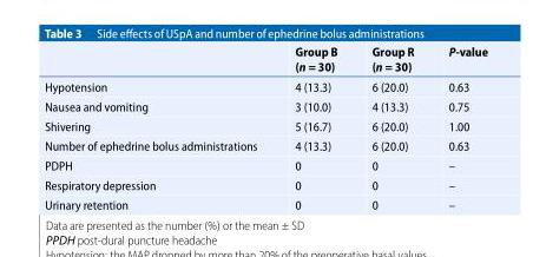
<table><thead><tr><td></td><td>Group B (n = 30)</td><td>Group R (n = 30)</td><td>P-value</td></tr></thead><tbody><tr><td>Hypotension</td><td>4 (13.3)</td><td>6 (20.0)</td><td>0.63</td></tr><tr><td>Nausea and vomiting</td><td>3 (10.0)</td><td>4 (13.3)</td><td>0.75</td></tr><tr><td>Shivering</td><td>5 (16.7)</td><td>6 (20.0)</td><td>1.00</td></tr><tr><td>Number of ephedrine bolus administrations</td><td>4 (13.3)</td><td>6 (20.0)</td><td>0.63</td></tr><tr><td>PDPH</td><td>0</td><td>0</td><td>–</td></tr><tr><td>Respiratory depression</td><td>0</td><td>0</td><td>–</td></tr><tr><td>Urinary retention</td><td>0</td><td>0</td><td>–</td></tr></tbody></table>